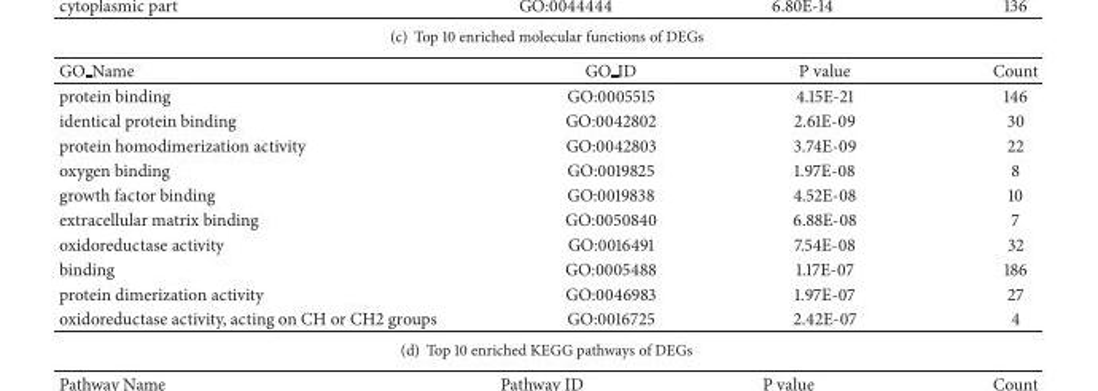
<table><thead><tr><td>GO Name</td><td>GO ID</td><td>P value</td><td>Count</td></tr></thead><tbody><tr><td>protein binding</td><td>GO:0005515</td><td>4.15E-21</td><td>146</td></tr><tr><td>identical protein binding</td><td>GO:0042802</td><td>2.61E-09</td><td>30</td></tr><tr><td>protein homodimerization activity</td><td>GO:0042803</td><td>3.74E-09</td><td>22</td></tr><tr><td>oxygen binding</td><td>GO:0019825</td><td>1.97E-08</td><td>8</td></tr><tr><td>growth factor binding</td><td>GO:0019838</td><td>4.52E-08</td><td>10</td></tr><tr><td>extracellular matrix binding</td><td>GO:0050840</td><td>6.88E-08</td><td>7</td></tr><tr><td>oxidoreductase activity</td><td>GO:0016491</td><td>7.54E-08</td><td>32</td></tr><tr><td>binding</td><td>GO:0005488</td><td>1.17E-07</td><td>186</td></tr><tr><td>protein dimerization activity</td><td>GO:0046983</td><td>1.97E-07</td><td>27</td></tr><tr><td>oxidoreductase activity, acting on CH or CH2 groups</td><td>GO:0016725</td><td>2.42E-07</td><td>4</td></tr></tbody></table>